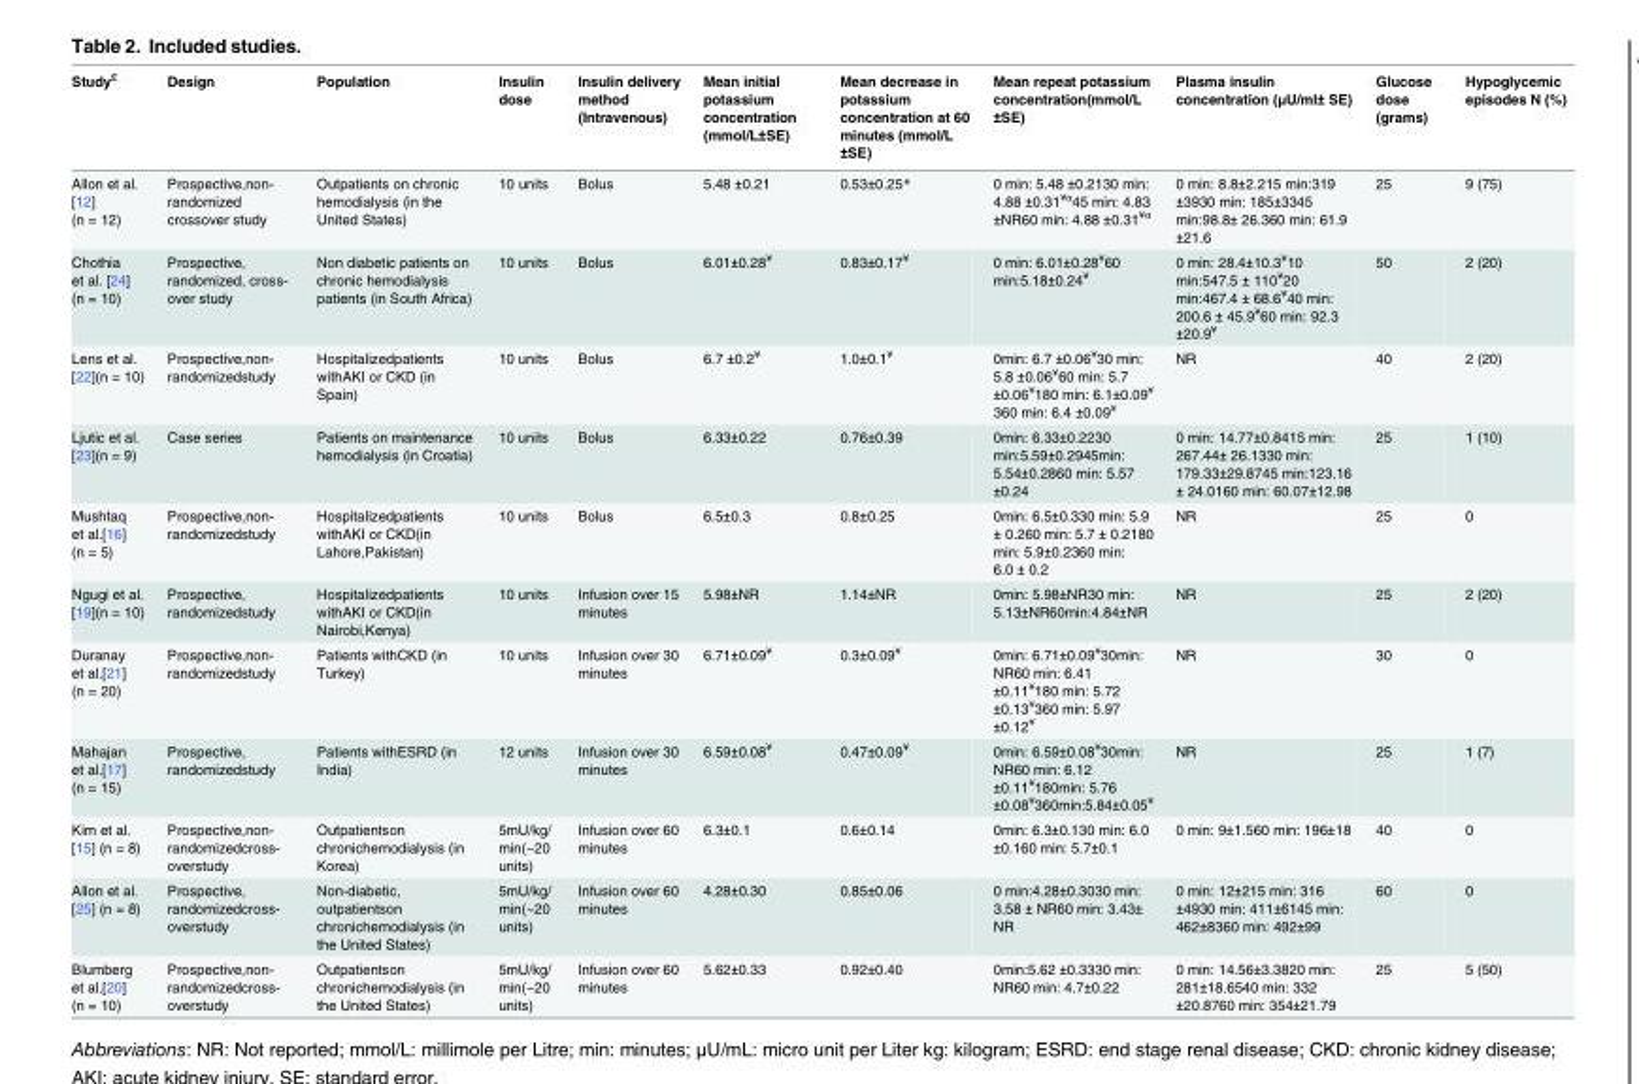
<table><thead><tr><td>Study<sup>£</sup></td><td>Design</td><td>Population</td><td>Insulin dose</td><td>Insulin delivery method (Intravenous)</td><td>Mean initial potassium concentration (mmol/L±SE)</td><td>Mean decrease in potassium concentration at 60 minutes (mmol/L ±SE)</td><td>Mean repeat potassium concentration(mmol/L ±SE)</td><td>Plasma insulin concentration (μU/ml± SE)</td><td>Glucose dose (grams)</td><td>Hypoglycemic episodes N (%)</td></tr></thead><tbody><tr><td>Allon et al. [12] (n = 12)</td><td>Prospective,non- randomized crossover study</td><td>Outpatients on chronic hemodialysis (in the United States)</td><td>10 units</td><td>Bolus</td><td>5.48 ±0.21</td><td>0.53±0.25*</td><td>0 min: 5.48 ±0.2130 min: 4.88 ±0.31<sup>¥α</sup>45 min: 4.83 ±NR60 min: 4.88 ±0.31<sup>¥α</sup></td><td>0 min: 8.8±2.215 min:319 ±3930 min: 185±3345 min:98.8± 26.360 min: 61.9 ±21.6</td><td>25</td><td>9 (75)</td></tr><tr><td>Chothia et al. [24] (n = 10)</td><td>Prospective, randomized, cross- over study</td><td>Non diabetic patients on chronic hemodialysis patients (in South Africa)</td><td>10 units</td><td>Bolus</td><td>6.01±0.28<sup>¥</sup></td><td>0.83±0.17<sup>¥</sup></td><td>0 min: 6.01±0.28<sup>¥</sup>60 min:5.18±0.24<sup>¥</sup></td><td>0 min: 28.4±10.3<sup>¥</sup>10 min:547.5 ± 110<sup>¥</sup>20 min:467.4 ± 68.6<sup>¥</sup>40 min: 200.6 ± 45.9<sup>¥</sup>60 min: 92.3 ±20.9<sup>¥</sup></td><td>50</td><td>2 (20)</td></tr><tr><td>Lens et al. [22](n = 10)</td><td>Prospective,non- randomizedstudy</td><td>Hospitalizedpatients withAKI or CKD (in Spain)</td><td>10 units</td><td>Bolus</td><td>6.7 ±0.2<sup>¥</sup></td><td>1.0±0.1<sup>¥</sup></td><td>0min: 6.7 ±0.06<sup>¥</sup>30 min: 5.8 ±0.06<sup>¥</sup>60 min: 5.7 ±0.06<sup>¥</sup>180 min: 6.1±0.09<sup>¥</sup> 360 min: 6.4 ±0.09<sup>¥</sup></td><td>NR</td><td>40</td><td>2 (20)</td></tr><tr><td>Ljutic et al. [23](n = 9)</td><td>Case series</td><td>Patients on maintenance hemodialysis (in Croatia)</td><td>10 units</td><td>Bolus</td><td>6.33±0.22</td><td>0.76±0.39</td><td>0min: 6.33±0.2230 min:5.59±0.2945min: 5.54±0.2860 min: 5.57 ±0.24</td><td>0 min: 14.77±0.8415 min: 267.44± 26.1330 min: 179.33±29.8745 min:123.16 ± 24.0160 min: 60.07±12.98</td><td>25</td><td>1 (10)</td></tr><tr><td>Mushtaq et al.[16] (n = 5)</td><td>Prospective,non- randomizedstudy</td><td>Hospitalizedpatients withAKI or CKD(in Lahore,Pakistan)</td><td>10 units</td><td>Bolus</td><td>6.5±0.3</td><td>0.8±0.25</td><td>0min: 6.5±0.330 min: 5.9 ± 0.260 min: 5.7 ± 0.2180 min: 5.9±0.2360 min: 6.0 ± 0.2</td><td>NR</td><td>25</td><td>0</td></tr><tr><td>Ngugi et al. [19](n = 10)</td><td>Prospective, randomizedstudy</td><td>Hospitalizedpatients withAKI or CKD(in Nairobi,Kenya)</td><td>10 units</td><td>Infusion over 15 minutes</td><td>5.98±NR</td><td>1.14±NR</td><td>0min: 5.98±NR30 min: 5.13±NR60min:4.84±NR</td><td>NR</td><td>25</td><td>2 (20)</td></tr><tr><td>Duranay et al.[21] (n = 20)</td><td>Prospective,non- randomizedstudy</td><td>Patients withCKD (in Turkey)</td><td>10 units</td><td>Infusion over 30 minutes</td><td>6.71±0.09<sup>¥</sup></td><td>0.3±0.09<sup>¥</sup></td><td>0min: 6.71±0.09<sup>¥</sup>30min: NR60 min: 6.41 ±0.11<sup>¥</sup>180 min: 5.72 ±0.13<sup>¥</sup>360 min: 5.97 ±0.12<sup>¥</sup></td><td>NR</td><td>30</td><td>0</td></tr><tr><td>Mahajan et al.[17] (n = 15)</td><td>Prospective, randomizedstudy</td><td>Patients withESRD (in India)</td><td>12 units</td><td>Infusion over 30 minutes</td><td>6.59±0.08<sup>¥</sup></td><td>0.47±0.09<sup>¥</sup></td><td>0min: 6.59±0.08<sup>¥</sup>30min: NR60 min: 6.12 ±0.11<sup>¥</sup>180min: 5.76 ±0.08<sup>¥</sup>360min:5.84±0.05<sup>¥</sup></td><td>NR</td><td>25</td><td>1 (7)</td></tr><tr><td>Kim et al. [15] (n = 8)</td><td>Prospective,non- randomizedcross- overstudy</td><td>Outpatientson chronichemodialysis (in Korea)</td><td>5mU/kg/ min(~20 units)</td><td>Infusion over 60 minutes</td><td>6.3±0.1</td><td>0.6±0.14</td><td>0min: 6.3±0.130 min: 6.0 ±0.160 min: 5.7±0.1</td><td>0 min: 9±1.560 min: 196±18</td><td>40</td><td>0</td></tr><tr><td>Allon et al. [25] (n = 8)</td><td>Prospective, randomizedcross- overstudy</td><td>Non-diabetic, outpatientson chronichemodialysis (in the United States)</td><td>5mU/kg/ min(~20 units)</td><td>Infusion over 60 minutes</td><td>4.28±0.30</td><td>0.85±0.06</td><td>0 min:4.28±0.3030 min: 3.58 ± NR60 min: 3.43± NR</td><td>0 min: 12±215 min: 316 ±4930 min: 411±6145 min: 462±8360 min: 492±99</td><td>60</td><td>0</td></tr><tr><td>Blumberg et al.[20] (n = 10)</td><td>Prospective,non- randomizedcross- overstudy</td><td>Outpatientson chronichemodialysis (in the United States)</td><td>5mU/kg/ min(~20 units)</td><td>Infusion over 60 minutes</td><td>5.62±0.33</td><td>0.92±0.40</td><td>0min:5.62 ±0.3330 min: NR60 min: 4.7±0.22</td><td>0 min: 14.56±3.3820 min: 281±18.6540 min: 332 ±20.8760 min: 354±21.79</td><td>25</td><td>5 (50)</td></tr></tbody></table>